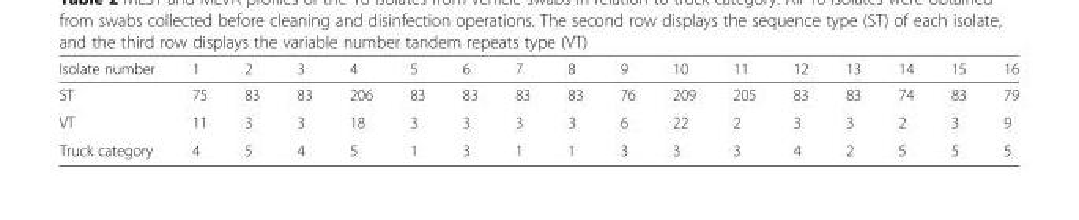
<table><thead><tr><td>Isolate number</td><td>1</td><td>2</td><td>3</td><td>4</td><td>5</td><td>6</td><td>7</td><td>8</td><td>9</td><td>10</td><td>11</td><td>12</td><td>13</td><td>14</td><td>15</td><td>16</td></tr></thead><tbody><tr><td>ST</td><td>75</td><td>83</td><td>83</td><td>206</td><td>83</td><td>83</td><td>83</td><td>83</td><td>76</td><td>209</td><td>205</td><td>83</td><td>83</td><td>74</td><td>83</td><td>79</td></tr><tr><td>VT</td><td>11</td><td>3</td><td>3</td><td>18</td><td>3</td><td>3</td><td>3</td><td>3</td><td>6</td><td>22</td><td>2</td><td>3</td><td>3</td><td>2</td><td>3</td><td>9</td></tr><tr><td>Truck category</td><td>4</td><td>5</td><td>4</td><td>5</td><td>1</td><td>3</td><td>1</td><td>1</td><td>3</td><td>3</td><td>3</td><td>4</td><td>2</td><td>5</td><td>5</td><td>5</td></tr></tbody></table>